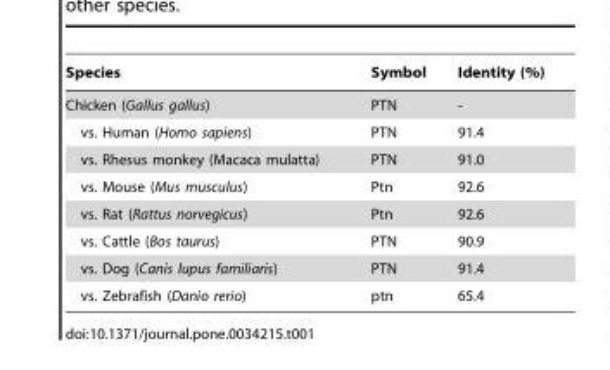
<table><thead><tr><td>Species</td><td>Symbol</td><td>Identity (%)</td></tr></thead><tbody><tr><td>Chicken (Gallus gallus)</td><td>PTN</td><td>-</td></tr><tr><td>vs. Human (Homo sapiens)</td><td>PTN</td><td>91.4</td></tr><tr><td>vs. Rhesus monkey (Macaca mulatta)</td><td>PTN</td><td>91.0</td></tr><tr><td>vs. Mouse (Mus musculus)</td><td>Ptn</td><td>92.6</td></tr><tr><td>vs. Rat (Rattus norvegicus)</td><td>Ptn</td><td>92.6</td></tr><tr><td>vs. Cattle (Bos taurus)</td><td>PTN</td><td>90.9</td></tr><tr><td>vs. Dog (Canis lupus familiaris)</td><td>PTN</td><td>91.4</td></tr><tr><td>vs. Zebrafish (Danio rerio)</td><td>ptn</td><td>65.4</td></tr></tbody></table>